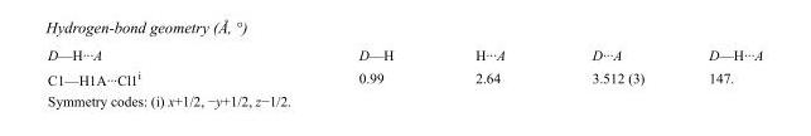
<table><tbody><tr><td>D—H···A</td><td>D—H</td><td>H···A</td><td>D···A</td><td>D—H···A</td></tr><tr><td>C1—H1A···Cl1<sup>i</sup></td><td>0.99</td><td>2.64</td><td>3.512 (3)</td><td>147.</td></tr></tbody></table>